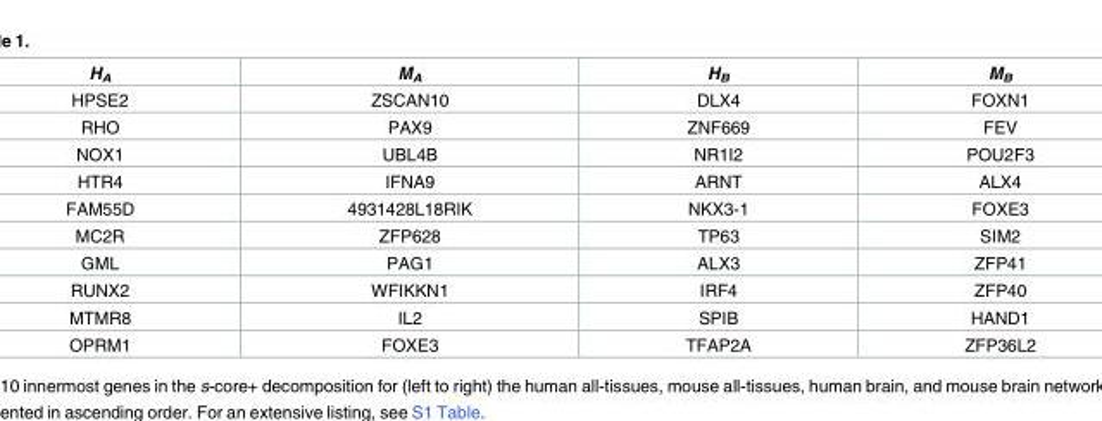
<table><thead><tr><td>H<sub>A</sub></td><td>M<sub>A</sub></td><td>H<sub>B</sub></td><td>M<sub>B</sub></td></tr></thead><tbody><tr><td>HPSE2</td><td>ZSCAN10</td><td>DLX4</td><td>FOXN1</td></tr><tr><td>RHO</td><td>PAX9</td><td>ZNF669</td><td>FEV</td></tr><tr><td>NOX1</td><td>UBL4B</td><td>NR1I2</td><td>POU2F3</td></tr><tr><td>HTR4</td><td>IFNA9</td><td>ARNT</td><td>ALX4</td></tr><tr><td>FAM55D</td><td>4931428L18RIK</td><td>NKX3-1</td><td>FOXE3</td></tr><tr><td>MC2R</td><td>ZFP628</td><td>TP63</td><td>SIM2</td></tr><tr><td>GML</td><td>PAG1</td><td>ALX3</td><td>ZFP41</td></tr><tr><td>RUNX2</td><td>WFIKKN1</td><td>IRF4</td><td>ZFP40</td></tr><tr><td>MTMR8</td><td>IL2</td><td>SPIB</td><td>HAND1</td></tr><tr><td>OPRM1</td><td>FOXE3</td><td>TFAP2A</td><td>ZFP36L2</td></tr></tbody></table>